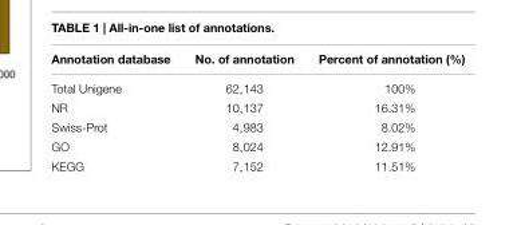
<table><thead><tr><td>Annotation database</td><td>No. of annotation</td><td>Percent of annotation (%)</td></tr></thead><tbody><tr><td>Total Unigene</td><td>62,143</td><td>100%</td></tr><tr><td>NR</td><td>10,137</td><td>16.31%</td></tr><tr><td>Swiss-Prot</td><td>4,983</td><td>8.02%</td></tr><tr><td>GO</td><td>8,024</td><td>12.91%</td></tr><tr><td>KEGG</td><td>7,152</td><td>11.51%</td></tr></tbody></table>